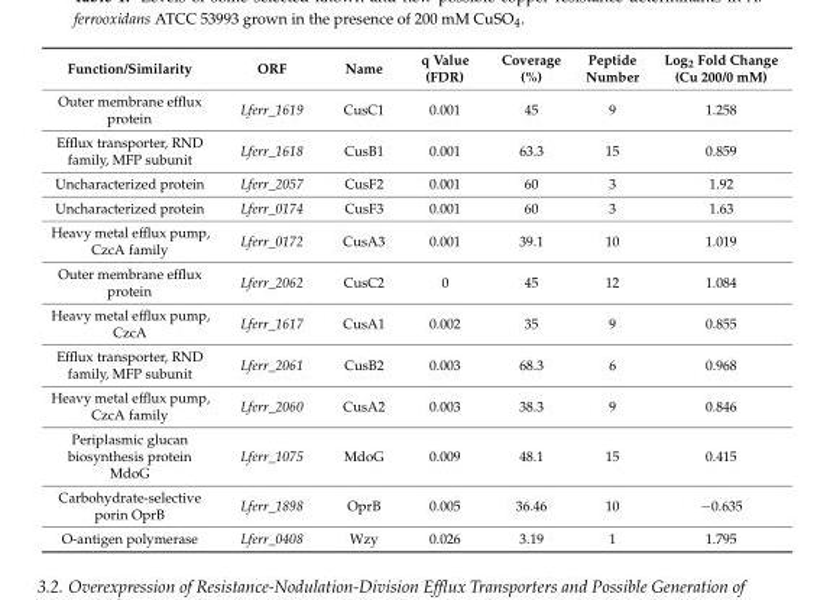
<table><thead><tr><td>Function/Similarity</td><td>ORF</td><td>Name</td><td>q Value (FDR)</td><td>Coverage (%)</td><td>Peptide Number</td><td>Log<sub>2</sub> Fold Change (Cu 200/0 mM)</td></tr></thead><tbody><tr><td>Outer membrane efflux protein</td><td>Lferr_1619</td><td>CusC1</td><td>0.001</td><td>45</td><td>9</td><td>1.258</td></tr><tr><td>Efflux transporter, RND family, MFP subunit</td><td>Lferr_1618</td><td>CusB1</td><td>0.001</td><td>63.3</td><td>15</td><td>0.859</td></tr><tr><td>Uncharacterized protein</td><td>Lferr_2057</td><td>CusF2</td><td>0.001</td><td>60</td><td>3</td><td>1.92</td></tr><tr><td>Uncharacterized protein</td><td>Lferr_0174</td><td>CusF3</td><td>0.001</td><td>60</td><td>3</td><td>1.63</td></tr><tr><td>Heavy metal efflux pump, CzcA family</td><td>Lferr_0172</td><td>CusA3</td><td>0.001</td><td>39.1</td><td>10</td><td>1.019</td></tr><tr><td>Outer membrane efflux protein</td><td>Lferr_2062</td><td>CusC2</td><td>0</td><td>45</td><td>12</td><td>1.084</td></tr><tr><td>Heavy metal efflux pump, CzcA</td><td>Lferr_1617</td><td>CusA1</td><td>0.002</td><td>35</td><td>9</td><td>0.855</td></tr><tr><td>Efflux transporter, RND family, MFP subunit</td><td>Lferr_2061</td><td>CusB2</td><td>0.003</td><td>68.3</td><td>6</td><td>0.968</td></tr><tr><td>Heavy metal efflux pump, CzcA family</td><td>Lferr_2060</td><td>CusA2</td><td>0.003</td><td>38.3</td><td>9</td><td>0.846</td></tr><tr><td>Periplasmic glucan biosynthesis protein MdoG</td><td>Lferr_1075</td><td>MdoG</td><td>0.009</td><td>48.1</td><td>15</td><td>0.415</td></tr><tr><td>Carbohydrate-selective porin OprB</td><td>Lferr_1898</td><td>OprB</td><td>0.005</td><td>36.46</td><td>10</td><td>−0.635</td></tr><tr><td>O-antigen polymerase</td><td>Lferr_0408</td><td>Wzy</td><td>0.026</td><td>3.19</td><td>1</td><td>1.795</td></tr></tbody></table>